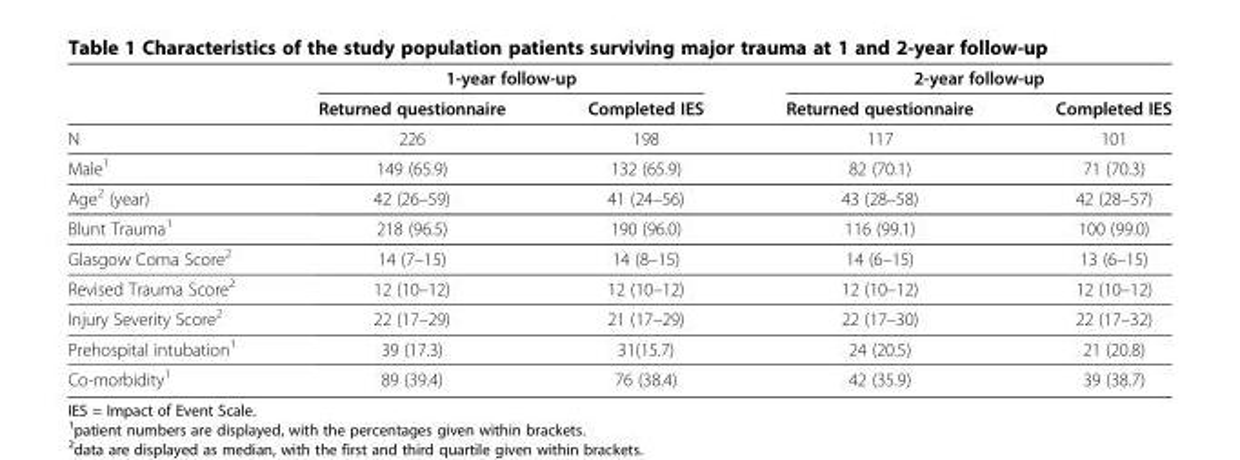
<table><thead><tr><td rowspan="2"></td><td colspan="2">1-year follow-up</td><td colspan="2">2-year follow-up</td></tr><tr><td>Returned questionnaire</td><td>Completed IES</td><td>Returned questionnaire</td><td>Completed IES</td></tr></thead><tbody><tr><td>N</td><td>226</td><td>198</td><td>117</td><td>101</td></tr><tr><td>Male<sup>1</sup></td><td>149 (65.9)</td><td>132 (65.9)</td><td>82 (70.1)</td><td>71 (70.3)</td></tr><tr><td>Age<sup>2</sup> (year)</td><td>42 (26–59)</td><td>41 (24–56)</td><td>43 (28–58)</td><td>42 (28–57)</td></tr><tr><td>Blunt Trauma<sup>1</sup></td><td>218 (96.5)</td><td>190 (96.0)</td><td>116 (99.1)</td><td>100 (99.0)</td></tr><tr><td>Glasgow Coma Score<sup>2</sup></td><td>14 (7–15)</td><td>14 (8–15)</td><td>14 (6–15)</td><td>13 (6–15)</td></tr><tr><td>Revised Trauma Score<sup>2</sup></td><td>12 (10–12)</td><td>12 (10–12)</td><td>12 (10–12)</td><td>12 (10–12)</td></tr><tr><td>Injury Severity Score<sup>2</sup></td><td>22 (17–29)</td><td>21 (17–29)</td><td>22 (17–30)</td><td>22 (17–32)</td></tr><tr><td>Prehospital intubation<sup>1</sup></td><td>39 (17.3)</td><td>31(15.7)</td><td>24 (20.5)</td><td>21 (20.8)</td></tr><tr><td>Co-morbidity<sup>1</sup></td><td>89 (39.4)</td><td>76 (38.4)</td><td>42 (35.9)</td><td>39 (38.7)</td></tr></tbody></table>